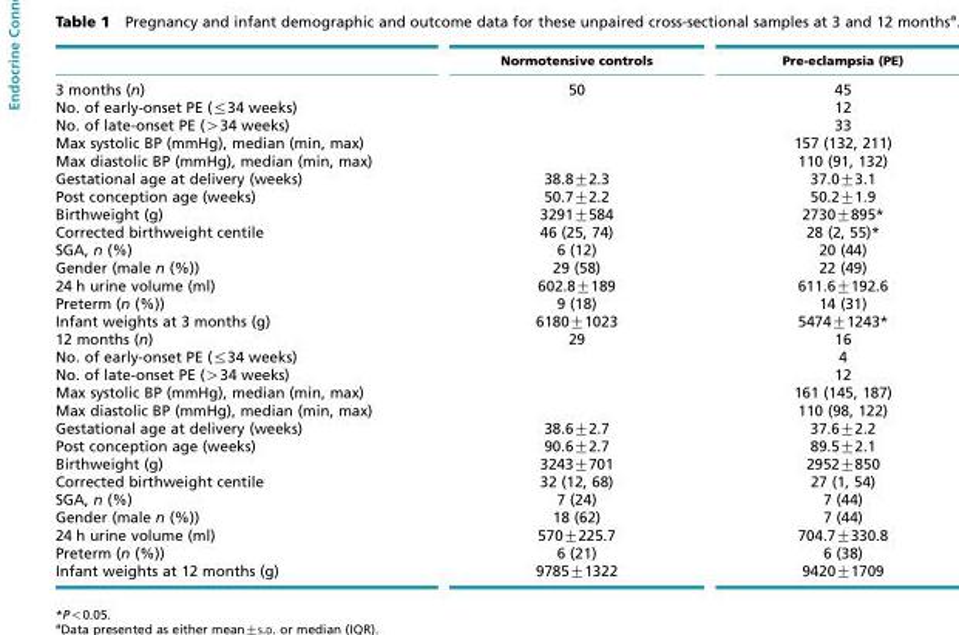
<table><thead><tr><td></td><td>Normotensive controls</td><td>Pre-eclampsia (PE)</td></tr></thead><tbody><tr><td>3 months (n)</td><td>50</td><td>45</td></tr><tr><td>No. of early-onset PE (≤34 weeks)</td><td></td><td>12</td></tr><tr><td>No. of late-onset PE (&gt;34 weeks)</td><td></td><td>33</td></tr><tr><td>Max systolic BP (mmHg), median (min, max)</td><td></td><td>157 (132, 211)</td></tr><tr><td>Max diastolic BP (mmHg), median (min, max)</td><td></td><td>110 (91, 132)</td></tr><tr><td>Gestational age at delivery (weeks)</td><td>38.8±2.3</td><td>37.0±3.1</td></tr><tr><td>Post conception age (weeks)</td><td>50.7±2.2</td><td>50.2±1.9</td></tr><tr><td>Birthweight (g)</td><td>3291±584</td><td>2730±895*</td></tr><tr><td>Corrected birthweight centile</td><td>46 (25, 74)</td><td>28 (2, 55)*</td></tr><tr><td>SGA, n (%)</td><td>6 (12)</td><td>20 (44)</td></tr><tr><td>Gender (male n (%))</td><td>29 (58)</td><td>22 (49)</td></tr><tr><td>24 h urine volume (ml)</td><td>602.8±189</td><td>611.6±192.6</td></tr><tr><td>Preterm (n (%))</td><td>9 (18)</td><td>14 (31)</td></tr><tr><td>Infant weights at 3 months (g)</td><td>6180±1023</td><td>5474±1243*</td></tr><tr><td>12 months (n)</td><td>29</td><td>16</td></tr><tr><td>No. of early-onset PE (≤34 weeks)</td><td></td><td>4</td></tr><tr><td>No. of late-onset PE (&gt;34 weeks)</td><td></td><td>12</td></tr><tr><td>Max systolic BP (mmHg), median (min, max)</td><td></td><td>161 (145, 187)</td></tr><tr><td>Max diastolic BP (mmHg), median (min, max)</td><td></td><td>110 (98, 122)</td></tr><tr><td>Gestational age at delivery (weeks)</td><td>38.6±2.7</td><td>37.6±2.2</td></tr><tr><td>Post conception age (weeks)</td><td>90.6±2.7</td><td>89.5±2.1</td></tr><tr><td>Birthweight (g)</td><td>3243±701</td><td>2952±850</td></tr><tr><td>Corrected birthweight centile</td><td>32 (12, 68)</td><td>27 (1, 54)</td></tr><tr><td>SGA, n (%)</td><td>7 (24)</td><td>7 (44)</td></tr><tr><td>Gender (male n (%))</td><td>18 (62)</td><td>7 (44)</td></tr><tr><td>24 h urine volume (ml)</td><td>570±225.7</td><td>704.7±330.8</td></tr><tr><td>Preterm (n (%))</td><td>6 (21)</td><td>6 (38)</td></tr><tr><td>Infant weights at 12 months (g)</td><td>9785±1322</td><td>9420±1709</td></tr></tbody></table>